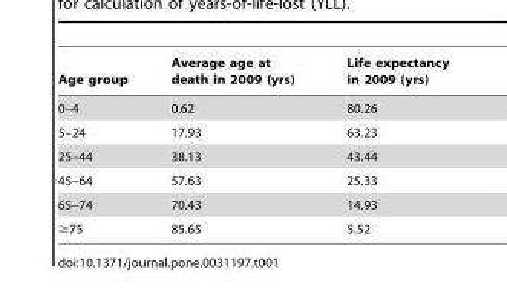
<table><thead><tr><td>Age group</td><td>Average age at death in 2009 (yrs)</td><td>Life expectancy in 2009 (yrs)</td></tr></thead><tbody><tr><td>0–4</td><td>0.62</td><td>80.26</td></tr><tr><td>5–24</td><td>17.93</td><td>63.23</td></tr><tr><td>25–44</td><td>38.13</td><td>43.44</td></tr><tr><td>45–64</td><td>57.63</td><td>25.33</td></tr><tr><td>65–74</td><td>70.43</td><td>14.93</td></tr><tr><td>≥75</td><td>85.65</td><td>5.52</td></tr></tbody></table>